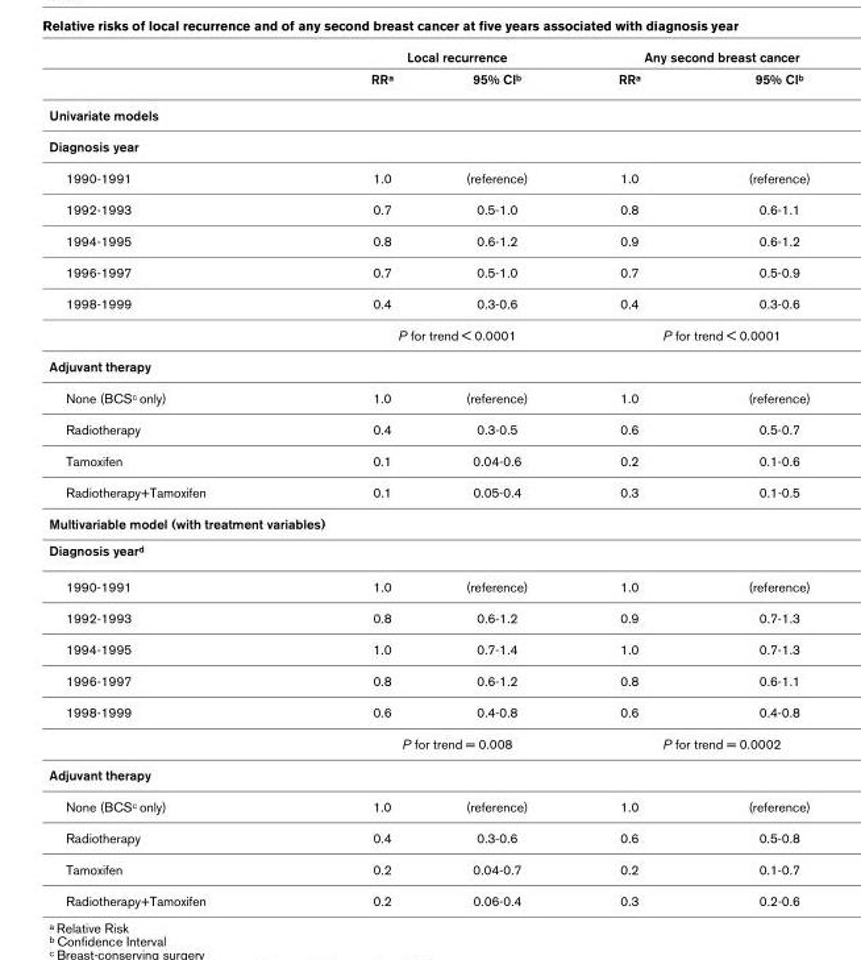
<table><thead><tr><td rowspan="2"></td><td colspan="2">Local recurrence</td><td colspan="2">Any second breast cancer</td></tr><tr><td>RR<sup>a</sup></td><td>95% CI<sup>b</sup></td><td>RR<sup>a</sup></td><td>95% CI<sup>b</sup></td></tr></thead><tbody><tr><td colspan="5">Univariate models</td></tr><tr><td colspan="5">Diagnosis year</td></tr><tr><td>1990-1991</td><td>1.0</td><td>(reference)</td><td>1.0</td><td>(reference)</td></tr><tr><td>1992-1993</td><td>0.7</td><td>0.5-1.0</td><td>0.8</td><td>0.6-1.1</td></tr><tr><td>1994-1995</td><td>0.8</td><td>0.6-1.2</td><td>0.9</td><td>0.6-1.2</td></tr><tr><td>1996-1997</td><td>0.7</td><td>0.5-1.0</td><td>0.7</td><td>0.5-0.9</td></tr><tr><td rowspan="2">1998-1999</td><td>0.4</td><td>0.3-0.6</td><td>0.4</td><td>0.3-0.6</td></tr><tr><td colspan="2">P for trend &lt; 0.0001</td><td colspan="2">P for trend &lt; 0.0001</td></tr><tr><td colspan="5">Adjuvant therapy</td></tr><tr><td>None (BCS<sup>c</sup> only)</td><td>1.0</td><td>(reference)</td><td>1.0</td><td>(reference)</td></tr><tr><td>Radiotherapy</td><td>0.4</td><td>0.3-0.5</td><td>0.6</td><td>0.5-0.7</td></tr><tr><td>Tamoxifen</td><td>0.1</td><td>0.04-0.6</td><td>0.2</td><td>0.1-0.6</td></tr><tr><td>Radiotherapy+Tamoxifen</td><td>0.1</td><td>0.05-0.4</td><td>0.3</td><td>0.1-0.5</td></tr><tr><td colspan="5">Multivariable model (with treatment variables)</td></tr><tr><td colspan="5">Diagnosis year<sup>d</sup></td></tr><tr><td>1990-1991</td><td>1.0</td><td>(reference)</td><td>1.0</td><td>(reference)</td></tr><tr><td>1992-1993</td><td>0.8</td><td>0.6-1.2</td><td>0.9</td><td>0.7-1.3</td></tr><tr><td>1994-1995</td><td>1.0</td><td>0.7-1.4</td><td>1.0</td><td>0.7-1.3</td></tr><tr><td>1996-1997</td><td>0.8</td><td>0.6-1.2</td><td>0.8</td><td>0.6-1.1</td></tr><tr><td rowspan="2">1998-1999</td><td>0.6</td><td>0.4-0.8</td><td>0.6</td><td>0.4-0.8</td></tr><tr><td colspan="2">P for trend = 0.008</td><td colspan="2">P for trend = 0.0002</td></tr><tr><td colspan="5">Adjuvant therapy</td></tr><tr><td>None (BCS<sup>c</sup> only)</td><td>1.0</td><td>(reference)</td><td>1.0</td><td>(reference)</td></tr><tr><td>Radiotherapy</td><td>0.4</td><td>0.3-0.6</td><td>0.6</td><td>0.5-0.8</td></tr><tr><td>Tamoxifen</td><td>0.2</td><td>0.04-0.7</td><td>0.2</td><td>0.1-0.7</td></tr><tr><td>Radiotherapy+Tamoxifen</td><td>0.2</td><td>0.06-0.4</td><td>0.3</td><td>0.2-0.6</td></tr></tbody></table>